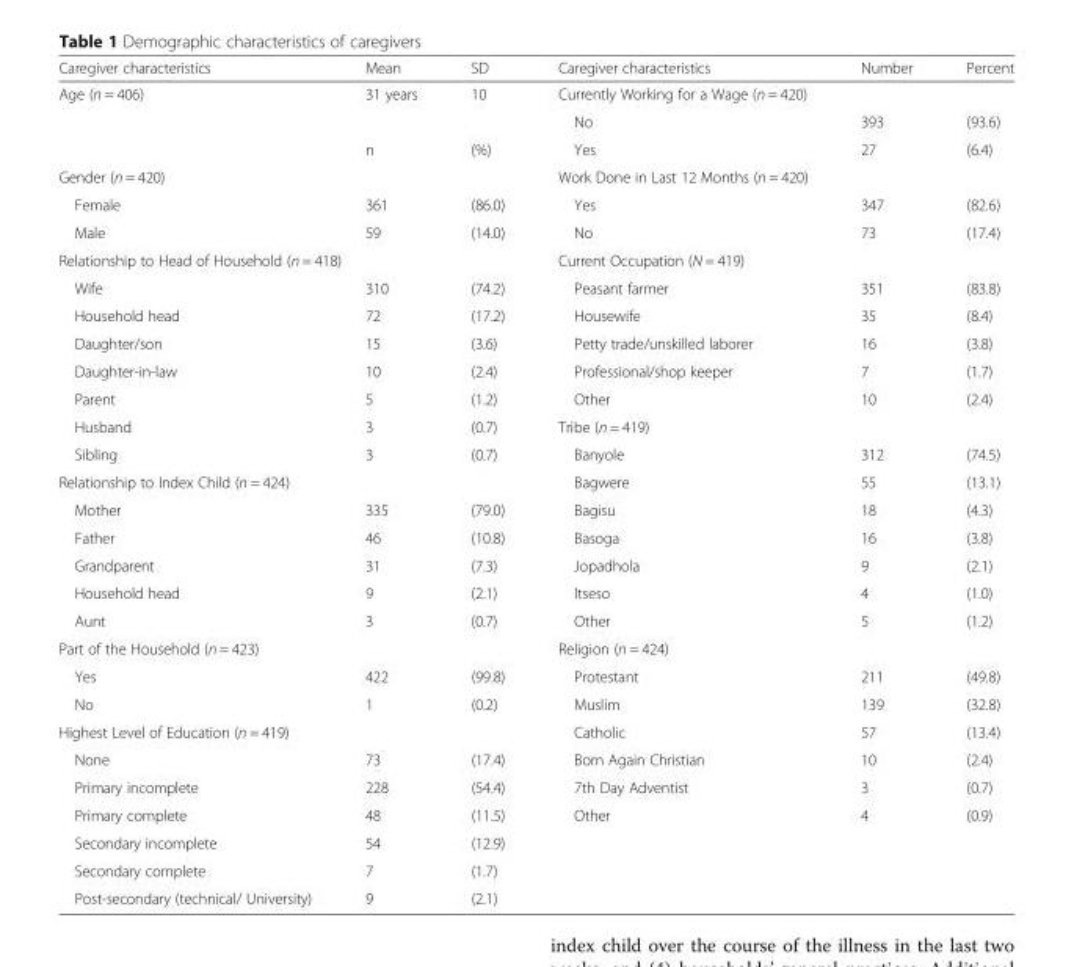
<table><thead><tr><td>Caregiver characteristics</td><td>Mean</td><td>SD</td><td>Caregiver characteristics</td><td>Number</td><td>Percent</td></tr></thead><tbody><tr><td rowspan="3">Age (n = 406)</td><td>31 years</td><td>10</td><td>Currently Working for a Wage (n = 420)</td><td></td><td></td></tr><tr><td></td><td></td><td>No</td><td>393</td><td>(93.6)</td></tr><tr><td>n</td><td>(%)</td><td>Yes</td><td>27</td><td>(6.4)</td></tr><tr><td colspan="3">Gender (n = 420)</td><td colspan="3">Work Done in Last 12 Months (n = 420)</td></tr><tr><td>Female</td><td>361</td><td>(86.0)</td><td>Yes</td><td>347</td><td>(82.6)</td></tr><tr><td>Male</td><td>59</td><td>(14.0)</td><td>No</td><td>73</td><td>(17.4)</td></tr><tr><td colspan="3">Relationship to Head of Household (n = 418)</td><td colspan="3">Current Occupation (N = 419)</td></tr><tr><td>Wife</td><td>310</td><td>(74.2)</td><td>Peasant farmer</td><td>351</td><td>(83.8)</td></tr><tr><td>Household head</td><td>72</td><td>(17.2)</td><td>Housewife</td><td>35</td><td>(8.4)</td></tr><tr><td>Daughter/son</td><td>15</td><td>(3.6)</td><td>Petty trade/unskilled laborer</td><td>16</td><td>(3.8)</td></tr><tr><td>Daughter-in-law</td><td>10</td><td>(2.4)</td><td>Professional/shop keeper</td><td>7</td><td>(1.7)</td></tr><tr><td>Parent</td><td>5</td><td>(1.2)</td><td>Other</td><td>10</td><td>(2.4)</td></tr><tr><td>Husband</td><td>3</td><td>(0.7)</td><td colspan="3">Tribe (n = 419)</td></tr><tr><td>Sibling</td><td>3</td><td>(0.7)</td><td>Banyole</td><td>312</td><td>(74.5)</td></tr><tr><td colspan="3">Relationship to Index Child (n = 424)</td><td>Bagwere</td><td>55</td><td>(13.1)</td></tr><tr><td>Mother</td><td>335</td><td>(79.0)</td><td>Bagisu</td><td>18</td><td>(4.3)</td></tr><tr><td>Father</td><td>46</td><td>(10.8)</td><td>Basoga</td><td>16</td><td>(3.8)</td></tr><tr><td>Grandparent</td><td>31</td><td>(7.3)</td><td>Jopadhola</td><td>9</td><td>(2.1)</td></tr><tr><td>Household head</td><td>9</td><td>(2.1)</td><td>Itseso</td><td>4</td><td>(1.0)</td></tr><tr><td>Aunt</td><td>3</td><td>(0.7)</td><td>Other</td><td>5</td><td>(1.2)</td></tr><tr><td colspan="3">Part of the Household (n = 423)</td><td colspan="3">Religion (n = 424)</td></tr><tr><td>Yes</td><td>422</td><td>(99.8)</td><td>Protestant</td><td>211</td><td>(49.8)</td></tr><tr><td>No</td><td>1</td><td>(0.2)</td><td>Muslim</td><td>139</td><td>(32.8)</td></tr><tr><td colspan="3">Highest Level of Education (n = 419)</td><td>Catholic</td><td>57</td><td>(13.4)</td></tr><tr><td>None</td><td>73</td><td>(17.4)</td><td>Born Again Christian</td><td>10</td><td>(2.4)</td></tr><tr><td>Primary incomplete</td><td>228</td><td>(54.4)</td><td>7th Day Adventist</td><td>3</td><td>(0.7)</td></tr><tr><td>Primary complete</td><td>48</td><td>(11.5)</td><td>Other</td><td>4</td><td>(0.9)</td></tr><tr><td>Secondary incomplete</td><td>54</td><td>(12.9)</td><td></td><td></td><td></td></tr><tr><td>Secondary complete</td><td>7</td><td>(1.7)</td><td></td><td></td><td></td></tr><tr><td>Post-secondary (technical/ University)</td><td>9</td><td>(2.1)</td><td></td><td></td><td></td></tr></tbody></table>